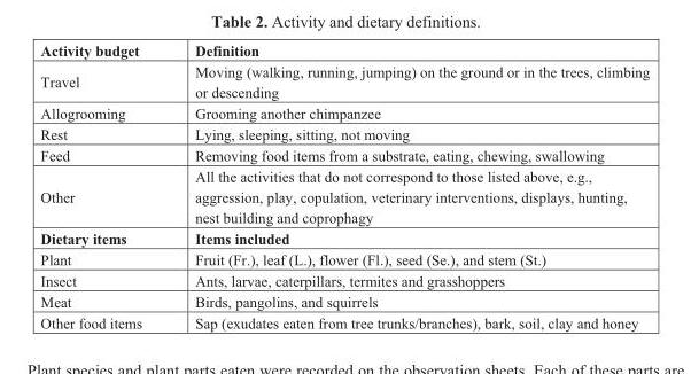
<table><thead><tr><td>Activity budget</td><td>Definition</td></tr></thead><tbody><tr><td>Travel</td><td>Moving (walking, running, jumping) on the ground or in the trees, climbing or descending</td></tr><tr><td>Allogrooming</td><td>Grooming another chimpanzee</td></tr><tr><td>Rest</td><td>Lying, sleeping, sitting, not moving</td></tr><tr><td>Feed</td><td>Removing food items from a substrate, eating, chewing, swallowing</td></tr><tr><td>Other</td><td>All the activities that do not correspond to those listed above, e.g., aggression, play, copulation, veterinary interventions, displays, hunting, nest building and coprophagy</td></tr><tr><td>Dietary items</td><td>Items included</td></tr><tr><td>Plant</td><td>Fruit (Fr.), leaf (L.), flower (Fl.), seed (Se.), and stem (St.)</td></tr><tr><td>Insect</td><td>Ants, larvae, caterpillars, termites and grasshoppers</td></tr><tr><td>Meat</td><td>Birds, pangolins, and squirrels</td></tr><tr><td>Other food items</td><td>Sap (exudates eaten from tree trunks/branches), bark, soil, clay and honey</td></tr></tbody></table>